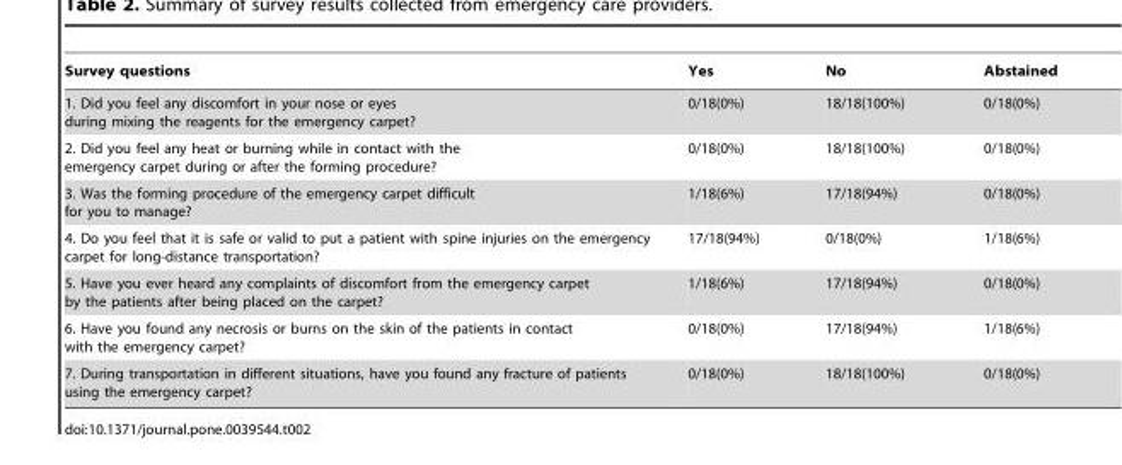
<table><thead><tr><td>Survey questions</td><td>Yes</td><td>No</td><td>Abstained</td></tr></thead><tbody><tr><td>1. Did you feel any discomfort in your nose or eyes during mixing the reagents for the emergency carpet?</td><td>0/18(0%)</td><td>18/18(100%)</td><td>0/18(0%)</td></tr><tr><td>2. Did you feel any heat or burning while in contact with the emergency carpet during or after the forming procedure?</td><td>0/18(0%)</td><td>18/18(100%)</td><td>0/18(0%)</td></tr><tr><td>3. Was the forming procedure of the emergency carpet difficult for you to manage?</td><td>1/18(6%)</td><td>17/18(94%)</td><td>0/18(0%)</td></tr><tr><td>4. Do you feel that it is safe or valid to put a patient with spine injuries on the emergency carpet for long-distance transportation?</td><td>17/18(94%)</td><td>0/18(0%)</td><td>1/18(6%)</td></tr><tr><td>5. Have you ever heard any complaints of discomfort from the emergency carpet by the patients after being placed on the carpet?</td><td>1/18(6%)</td><td>17/18(94%)</td><td>0/18(0%)</td></tr><tr><td>6. Have you found any necrosis or burns on the skin of the patients in contact with the emergency carpet?</td><td>0/18(0%)</td><td>17/18(94%)</td><td>1/18(6%)</td></tr><tr><td>7. During transportation in different situations, have you found any fracture of patients using the emergency carpet?</td><td>0/18(0%)</td><td>18/18(100%)</td><td>0/18(0%)</td></tr></tbody></table>